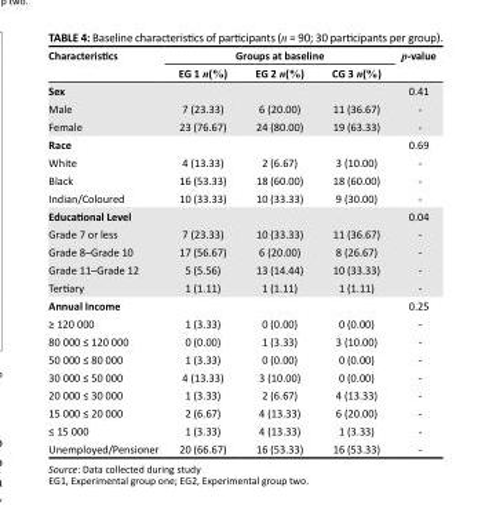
<table><thead><tr><td rowspan="2">Characteristics</td><td colspan="3">Groups at baseline</td><td rowspan="2">p-value</td></tr><tr><td>EG 1 n(%)</td><td>EG 2 n(%)</td><td>CG 3 n(%)</td></tr></thead><tbody><tr><td>Sex</td><td></td><td></td><td></td><td>0.41</td></tr><tr><td>Male</td><td>7 (23.33)</td><td>6 (20.00)</td><td>11 (36.67)</td><td>-</td></tr><tr><td>Female</td><td>23 (76.67)</td><td>24 (80.00)</td><td>19 (63.33)</td><td>-</td></tr><tr><td>Race</td><td></td><td></td><td></td><td>0.69</td></tr><tr><td>White</td><td>4 (13.33)</td><td>2 (6.67)</td><td>3 (10.00)</td><td>-</td></tr><tr><td>Black</td><td>16 (53.33)</td><td>18 (60.00)</td><td>18 (60.00)</td><td>-</td></tr><tr><td>Indian/Coloured</td><td>10 (33.33)</td><td>10 (33.33)</td><td>9 (30.00)</td><td>-</td></tr><tr><td>Educational Level</td><td></td><td></td><td></td><td>0.04</td></tr><tr><td>Grade 7 or less</td><td>7 (23.33)</td><td>10 (33.33)</td><td>11 (36.67)</td><td>-</td></tr><tr><td>Grade 8–Grade 10</td><td>17 (56.67)</td><td>6 (20.00)</td><td>8 (26.67)</td><td>-</td></tr><tr><td>Grade 11–Grade 12</td><td>5 (5.56)</td><td>13 (14.44)</td><td>10 (33.33)</td><td>-</td></tr><tr><td>Tertiary</td><td>1 (1.11)</td><td>1 (1.11)</td><td>1 (1.11)</td><td>-</td></tr><tr><td>Annual Income</td><td></td><td></td><td></td><td>0.25</td></tr><tr><td>≥ 120 000</td><td>1 (3.33)</td><td>0 (0.00)</td><td>0 (0.00)</td><td>-</td></tr><tr><td>80 000 ≤ 120 000</td><td>0 (0.00)</td><td>1 (3.33)</td><td>3 (10.00)</td><td>-</td></tr><tr><td>50 000 ≤ 80 000</td><td>1 (3.33)</td><td>0 (0.00)</td><td>0 (0.00)</td><td>-</td></tr><tr><td>30 000 ≤ 50 000</td><td>4 (13.33)</td><td>3 (10.00)</td><td>0 (0.00)</td><td>-</td></tr><tr><td>20 000 ≤ 30 000</td><td>1 (3.33)</td><td>2 (6.67)</td><td>4 (13.33)</td><td>-</td></tr><tr><td>15 000 ≤ 20 000</td><td>2 (6.67)</td><td>4 (13.33)</td><td>6 (20.00)</td><td>-</td></tr><tr><td>≤ 15 000</td><td>1 (3.33)</td><td>4 (13.33)</td><td>1 (3.33)</td><td>-</td></tr><tr><td>Unemployed/Pensioner</td><td>20 (66.67)</td><td>16 (53.33)</td><td>16 (53.33)</td><td>-</td></tr></tbody></table>